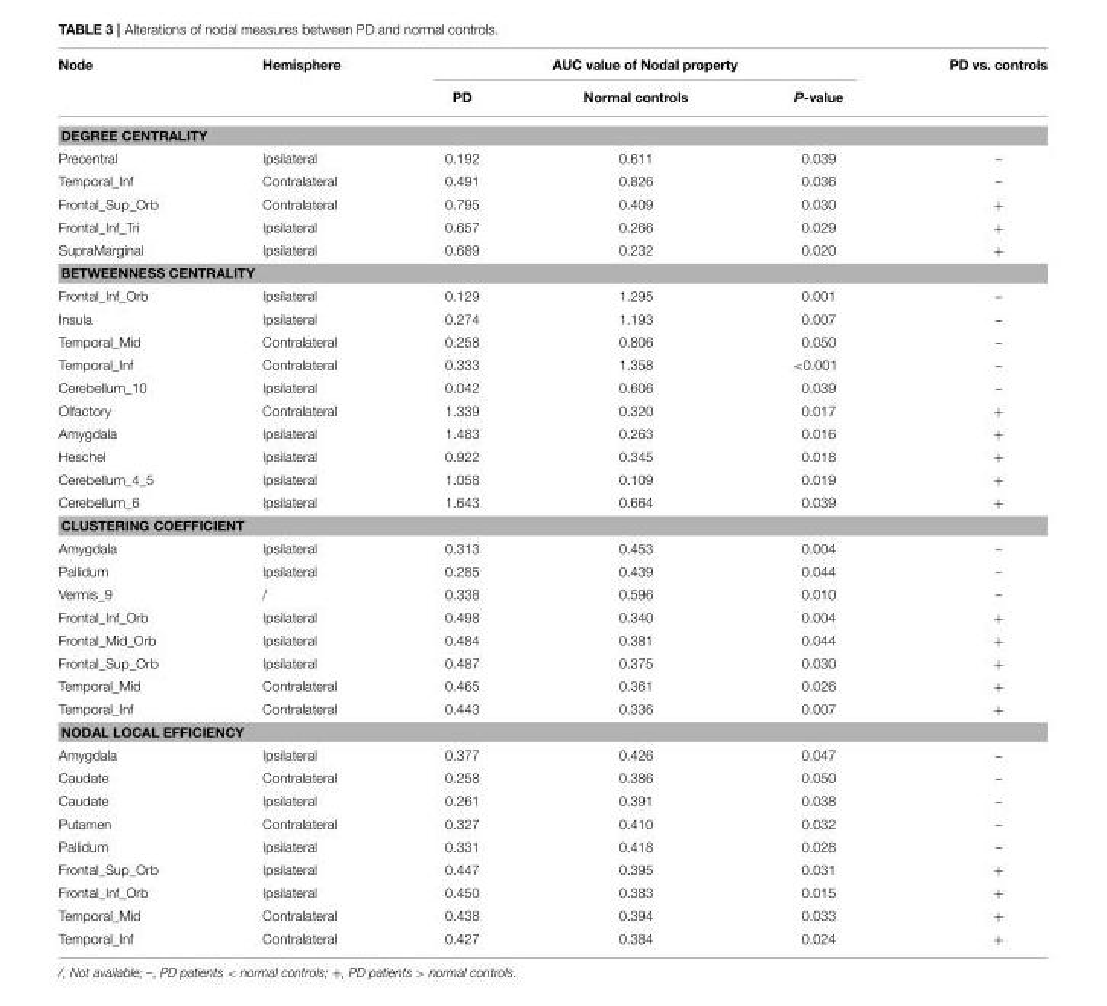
<table><thead><tr><td rowspan="2">Node</td><td rowspan="2">Hemisphere</td><td colspan="3">AUC value of Nodal property</td><td rowspan="2">PD vs. controls</td></tr><tr><td>PD</td><td>Normal controls</td><td>P-value</td></tr></thead><tbody><tr><td colspan="6">DEGREE CENTRALITY</td></tr><tr><td>Precentral</td><td>Ipsilateral</td><td>0.192</td><td>0.611</td><td>0.039</td><td>–</td></tr><tr><td>Temporal_Inf</td><td>Contralateral</td><td>0.491</td><td>0.826</td><td>0.036</td><td>–</td></tr><tr><td>Frontal_Sup_Orb</td><td>Contralateral</td><td>0.795</td><td>0.409</td><td>0.030</td><td>+</td></tr><tr><td>Frontal_Inf_Tri</td><td>Ipsilateral</td><td>0.657</td><td>0.266</td><td>0.029</td><td>+</td></tr><tr><td>SupraMarginal</td><td>Ipsilateral</td><td>0.689</td><td>0.232</td><td>0.020</td><td>+</td></tr><tr><td colspan="6">BETWEENNESS CENTRALITY</td></tr><tr><td>Frontal_Inf_Orb</td><td>Ipsilateral</td><td>0.129</td><td>1.295</td><td>0.001</td><td>–</td></tr><tr><td>Insula</td><td>Ipsilateral</td><td>0.274</td><td>1.193</td><td>0.007</td><td>–</td></tr><tr><td>Temporal_Mid</td><td>Contralateral</td><td>0.258</td><td>0.806</td><td>0.050</td><td>–</td></tr><tr><td>Temporal_Inf</td><td>Contralateral</td><td>0.333</td><td>1.358</td><td>&lt;0.001</td><td>–</td></tr><tr><td>Cerebellum_10</td><td>Ipsilateral</td><td>0.042</td><td>0.606</td><td>0.039</td><td>–</td></tr><tr><td>Olfactory</td><td>Contralateral</td><td>1.339</td><td>0.320</td><td>0.017</td><td>+</td></tr><tr><td>Amygdala</td><td>Ipsilateral</td><td>1.483</td><td>0.263</td><td>0.016</td><td>+</td></tr><tr><td>Heschel</td><td>Ipsilateral</td><td>0.922</td><td>0.345</td><td>0.018</td><td>+</td></tr><tr><td>Cerebellum_4_5</td><td>Ipsilateral</td><td>1.058</td><td>0.109</td><td>0.019</td><td>+</td></tr><tr><td>Cerebellum_6</td><td>Ipsilateral</td><td>1.643</td><td>0.664</td><td>0.039</td><td>+</td></tr><tr><td colspan="6">CLUSTERING COEFFICIENT</td></tr><tr><td>Amygdala</td><td>Ipsilateral</td><td>0.313</td><td>0.453</td><td>0.004</td><td>–</td></tr><tr><td>Pallidum</td><td>Ipsilateral</td><td>0.285</td><td>0.439</td><td>0.044</td><td>–</td></tr><tr><td>Vermis_9</td><td>/</td><td>0.338</td><td>0.596</td><td>0.010</td><td>–</td></tr><tr><td>Frontal_Inf_Orb</td><td>Ipsilateral</td><td>0.498</td><td>0.340</td><td>0.004</td><td>+</td></tr><tr><td>Frontal_Mid_Orb</td><td>Ipsilateral</td><td>0.484</td><td>0.381</td><td>0.044</td><td>+</td></tr><tr><td>Frontal_Sup_Orb</td><td>Ipsilateral</td><td>0.487</td><td>0.375</td><td>0.030</td><td>+</td></tr><tr><td>Temporal_Mid</td><td>Contralateral</td><td>0.465</td><td>0.361</td><td>0.026</td><td>+</td></tr><tr><td>Temporal_Inf</td><td>Contralateral</td><td>0.443</td><td>0.336</td><td>0.007</td><td>+</td></tr><tr><td colspan="6">NODAL LOCAL EFFICIENCY</td></tr><tr><td>Amygdala</td><td>Ipsilateral</td><td>0.377</td><td>0.426</td><td>0.047</td><td>–</td></tr><tr><td>Caudate</td><td>Contralateral</td><td>0.258</td><td>0.386</td><td>0.050</td><td>–</td></tr><tr><td>Caudate</td><td>Ipsilateral</td><td>0.261</td><td>0.391</td><td>0.038</td><td>–</td></tr><tr><td>Putamen</td><td>Contralateral</td><td>0.327</td><td>0.410</td><td>0.032</td><td>–</td></tr><tr><td>Pallidum</td><td>Ipsilateral</td><td>0.331</td><td>0.418</td><td>0.028</td><td>–</td></tr><tr><td>Frontal_Sup_Orb</td><td>Ipsilateral</td><td>0.447</td><td>0.395</td><td>0.031</td><td>+</td></tr><tr><td>Frontal_Inf_Orb</td><td>Ipsilateral</td><td>0.450</td><td>0.383</td><td>0.015</td><td>+</td></tr><tr><td>Temporal_Mid</td><td>Contralateral</td><td>0.438</td><td>0.394</td><td>0.033</td><td>+</td></tr><tr><td>Temporal_Inf</td><td>Contralateral</td><td>0.427</td><td>0.384</td><td>0.024</td><td>+</td></tr></tbody></table>